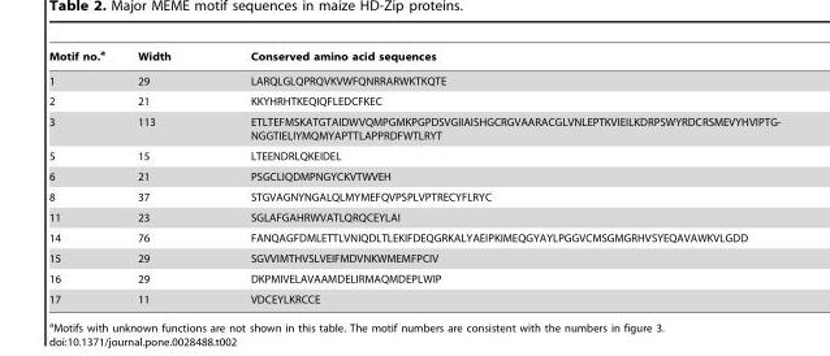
<table><thead><tr><td>Motif no.<sup>a</sup></td><td>Width</td><td>Conserved amino acid sequences</td></tr></thead><tbody><tr><td>1</td><td>29</td><td>LARQLGLQPRQVKVWFQNRRARWKTKQTE</td></tr><tr><td>2</td><td>21</td><td>KKYHRHTKEQIQFLEDCFKEC</td></tr><tr><td>3</td><td>113</td><td>ETLTEFMSKATGTAIDWVQMPGMKPGPDSVGIIAISHGCRGVAARACGLVNLEPTKVIEILKDRPSWYRDCRSMEVYHVIPTG- NGGTIELIYMQMYAPTTLAPPRDFWTLRYT</td></tr><tr><td>5</td><td>15</td><td>LTEENDRLQKEIDEL</td></tr><tr><td>6</td><td>21</td><td>PSGCLIQDMPNGYCKVTWVEH</td></tr><tr><td>8</td><td>37</td><td>STGVAGNYNGALQLMYMEFQVPSPLVPTRECYFLRYC</td></tr><tr><td>11</td><td>23</td><td>SGLAFGAHRWVATLQRQCEYLAI</td></tr><tr><td>14</td><td>76</td><td>FANQAGFDMLETTLVNIQDLTLEKIFDEQGRKALYAEIPKIMEQGYAYLPGGVCMSGMGRHVSYEQAVAWKVLGDD</td></tr><tr><td>15</td><td>29</td><td>SGVVIMTHVSLVEIFMDVNKWMEMFPCIV</td></tr><tr><td>16</td><td>29</td><td>DKPMIVELAVAAMDELIRMAQMDEPLWIP</td></tr><tr><td>17</td><td>11</td><td>VDCEYLKRCCE</td></tr></tbody></table>